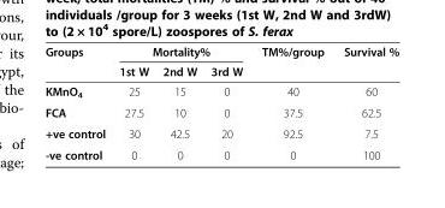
<table><thead><tr><td rowspan="2">Groups</td><td colspan="3">Mortality%</td><td rowspan="2">TM%/group</td><td rowspan="2">Survival %</td></tr><tr><td>1st W</td><td>2nd W</td><td>3rd W</td></tr></thead><tbody><tr><td>KMnO<sub>4</sub></td><td>25</td><td>15</td><td>0</td><td>40</td><td>60</td></tr><tr><td>FCA</td><td>27.5</td><td>10</td><td>0</td><td>37.5</td><td>62.5</td></tr><tr><td>+ve control</td><td>30</td><td>42.5</td><td>20</td><td>92.5</td><td>7.5</td></tr><tr><td>-ve control</td><td>0</td><td>0</td><td>0</td><td>0</td><td>100</td></tr></tbody></table>